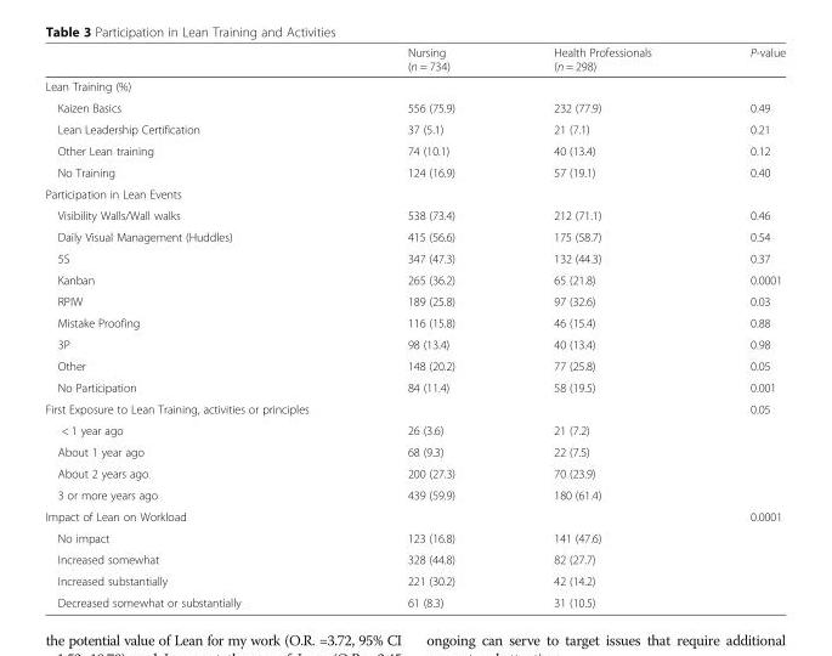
<table><thead><tr><td></td><td>Nursing (n = 734)</td><td>Health Professionals (n = 298)</td><td>P-value</td></tr></thead><tbody><tr><td colspan="4">Lean Training (%)</td></tr><tr><td>Kaizen Basics</td><td>556 (75.9)</td><td>232 (77.9)</td><td>0.49</td></tr><tr><td>Lean Leadership Certification</td><td>37 (5.1)</td><td>21 (7.1)</td><td>0.21</td></tr><tr><td>Other Lean training</td><td>74 (10.1)</td><td>40 (13.4)</td><td>0.12</td></tr><tr><td>No Training</td><td>124 (16.9)</td><td>57 (19.1)</td><td>0.40</td></tr><tr><td colspan="4">Participation in Lean Events</td></tr><tr><td>Visibility Walls/Wall walks</td><td>538 (73.4)</td><td>212 (71.1)</td><td>0.46</td></tr><tr><td>Daily Visual Management (Huddles)</td><td>415 (56.6)</td><td>175 (58.7)</td><td>0.54</td></tr><tr><td>5S</td><td>347 (47.3)</td><td>132 (44.3)</td><td>0.37</td></tr><tr><td>Kanban</td><td>265 (36.2)</td><td>65 (21.8)</td><td>0.0001</td></tr><tr><td>RPIW</td><td>189 (25.8)</td><td>97 (32.6)</td><td>0.03</td></tr><tr><td>Mistake Proofing</td><td>116 (15.8)</td><td>46 (15.4)</td><td>0.88</td></tr><tr><td>3P</td><td>98 (13.4)</td><td>40 (13.4)</td><td>0.98</td></tr><tr><td>Other</td><td>148 (20.2)</td><td>77 (25.8)</td><td>0.05</td></tr><tr><td>No Participation</td><td>84 (11.4)</td><td>58 (19.5)</td><td>0.001</td></tr><tr><td>First Exposure to Lean Training, activities or principles</td><td></td><td></td><td>0.05</td></tr><tr><td>&lt; 1 year ago</td><td>26 (3.6)</td><td>21 (7.2)</td><td></td></tr><tr><td>About 1 year ago</td><td>68 (9.3)</td><td>22 (7.5)</td><td></td></tr><tr><td>About 2 years ago</td><td>200 (27.3)</td><td>70 (23.9)</td><td></td></tr><tr><td>3 or more years ago</td><td>439 (59.9)</td><td>180 (61.4)</td><td></td></tr><tr><td>Impact of Lean on Workload</td><td></td><td></td><td>0.0001</td></tr><tr><td>No impact</td><td>123 (16.8)</td><td>141 (47.6)</td><td></td></tr><tr><td>Increased somewhat</td><td>328 (44.8)</td><td>82 (27.7)</td><td></td></tr><tr><td>Increased substantially</td><td>221 (30.2)</td><td>42 (14.2)</td><td></td></tr><tr><td>Decreased somewhat or substantially</td><td>61 (8.3)</td><td>31 (10.5)</td><td></td></tr></tbody></table>